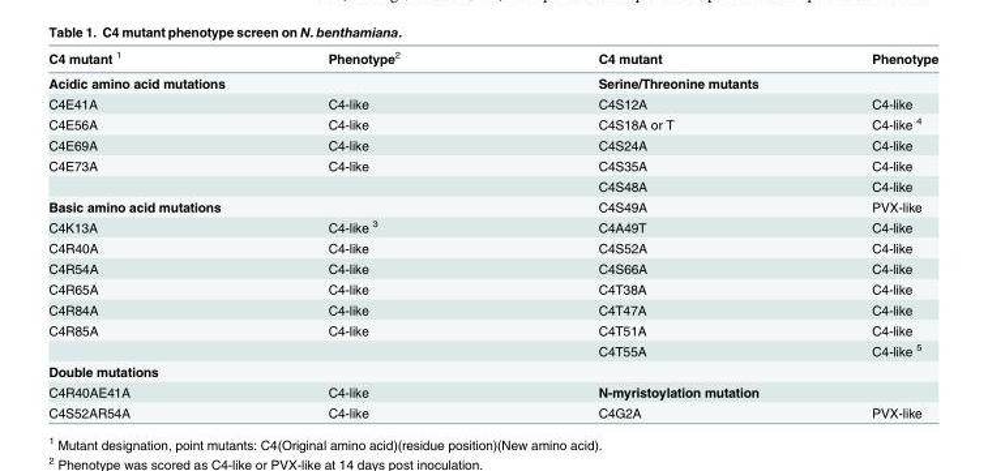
<table><thead><tr><td>C4 mutant <sup>1</sup></td><td>Phenotype<sup>2</sup></td><td>C4 mutant</td><td>Phenotype</td></tr></thead><tbody><tr><td colspan="2">Acidic amino acid mutations</td><td colspan="2">Serine/Threonine mutants</td></tr><tr><td>C4E41A</td><td>C4-like</td><td>C4S12A</td><td>C4-like</td></tr><tr><td>C4E56A</td><td>C4-like</td><td>C4S18A or T</td><td>C4-like <sup>4</sup></td></tr><tr><td>C4E69A</td><td>C4-like</td><td>C4S24A</td><td>C4-like</td></tr><tr><td>C4E73A</td><td>C4-like</td><td>C4S35A</td><td>C4-like</td></tr><tr><td colspan="2"></td><td>C4S48A</td><td>C4-like</td></tr><tr><td colspan="2">Basic amino acid mutations</td><td>C4S49A</td><td>PVX-like</td></tr><tr><td>C4K13A</td><td>C4-like <sup>3</sup></td><td>C4A49T</td><td>C4-like</td></tr><tr><td>C4R40A</td><td>C4-like</td><td>C4S52A</td><td>C4-like</td></tr><tr><td>C4R54A</td><td>C4-like</td><td>C4S66A</td><td>C4-like</td></tr><tr><td>C4R65A</td><td>C4-like</td><td>C4T38A</td><td>C4-like</td></tr><tr><td>C4R84A</td><td>C4-like</td><td>C4T47A</td><td>C4-like</td></tr><tr><td>C4R85A</td><td>C4-like</td><td>C4T51A</td><td>C4-like</td></tr><tr><td colspan="2"></td><td>C4T55A</td><td>C4-like <sup>5</sup></td></tr><tr><td colspan="4">Double mutations</td></tr><tr><td>C4R40AE41A</td><td>C4-like</td><td colspan="2">N-myristoylation mutation</td></tr><tr><td>C4S52AR54A</td><td>C4-like</td><td>C4G2A</td><td>PVX-like</td></tr></tbody></table>